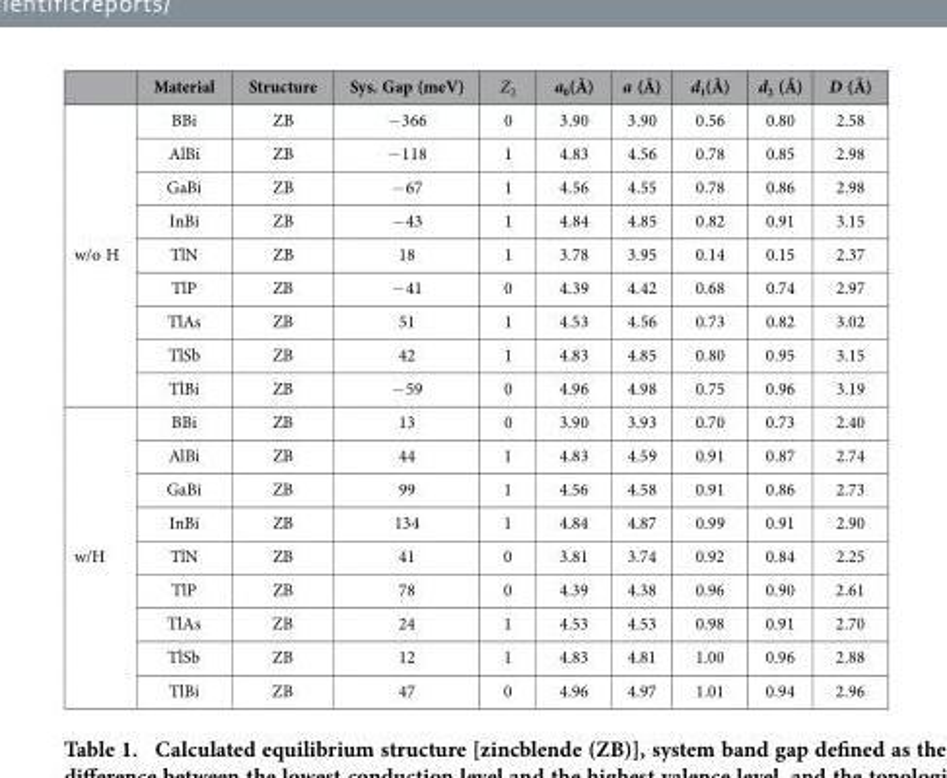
<table><thead><tr><td></td><td>Material</td><td>Structure</td><td>Sys. Gap (meV)</td><td>Z<sub>2</sub></td><td>a<sub>0</sub>(Å)</td><td>a (Å)</td><td>d<sub>1</sub>(Å)</td><td>d<sub>2</sub> (Å)</td><td>D (Å)</td></tr></thead><tbody><tr><td rowspan="9">w/o H</td><td>BBi</td><td>ZB</td><td>− 366</td><td>0</td><td>3.90</td><td>3.90</td><td>0.56</td><td>0.80</td><td>2.58</td></tr><tr><td>AlBi</td><td>ZB</td><td>− 118</td><td>1</td><td>4.83</td><td>4.56</td><td>0.78</td><td>0.85</td><td>2.98</td></tr><tr><td>GaBi</td><td>ZB</td><td>− 67</td><td>1</td><td>4.56</td><td>4.55</td><td>0.78</td><td>0.86</td><td>2.98</td></tr><tr><td>InBi</td><td>ZB</td><td>− 43</td><td>1</td><td>4.84</td><td>4.85</td><td>0.82</td><td>0.91</td><td>3.15</td></tr><tr><td>TlN</td><td>ZB</td><td>18</td><td>1</td><td>3.78</td><td>3.95</td><td>0.14</td><td>0.15</td><td>2.37</td></tr><tr><td>TlP</td><td>ZB</td><td>− 41</td><td>0</td><td>4.39</td><td>4.42</td><td>0.68</td><td>0.74</td><td>2.97</td></tr><tr><td>TlAs</td><td>ZB</td><td>51</td><td>1</td><td>4.53</td><td>4.56</td><td>0.73</td><td>0.82</td><td>3.02</td></tr><tr><td>TlSb</td><td>ZB</td><td>42</td><td>1</td><td>4.83</td><td>4.85</td><td>0.80</td><td>0.95</td><td>3.15</td></tr><tr><td>TlBi</td><td>ZB</td><td>− 59</td><td>0</td><td>4.96</td><td>4.98</td><td>0.75</td><td>0.96</td><td>3.19</td></tr><tr><td rowspan="9">w/H</td><td>BBi</td><td>ZB</td><td>13</td><td>0</td><td>3.90</td><td>3.93</td><td>0.70</td><td>0.73</td><td>2.40</td></tr><tr><td>AlBi</td><td>ZB</td><td>44</td><td>1</td><td>4.83</td><td>4.59</td><td>0.91</td><td>0.87</td><td>2.74</td></tr><tr><td>GaBi</td><td>ZB</td><td>99</td><td>1</td><td>4.56</td><td>4.58</td><td>0.91</td><td>0.86</td><td>2.73</td></tr><tr><td>InBi</td><td>ZB</td><td>134</td><td>1</td><td>4.84</td><td>4.87</td><td>0.99</td><td>0.91</td><td>2.90</td></tr><tr><td>TlN</td><td>ZB</td><td>41</td><td>0</td><td>3.81</td><td>3.74</td><td>0.92</td><td>0.84</td><td>2.25</td></tr><tr><td>TlP</td><td>ZB</td><td>78</td><td>0</td><td>4.39</td><td>4.38</td><td>0.96</td><td>0.90</td><td>2.61</td></tr><tr><td>TlAs</td><td>ZB</td><td>24</td><td>1</td><td>4.53</td><td>4.53</td><td>0.98</td><td>0.91</td><td>2.70</td></tr><tr><td>TlSb</td><td>ZB</td><td>12</td><td>1</td><td>4.83</td><td>4.81</td><td>1.00</td><td>0.96</td><td>2.88</td></tr><tr><td>TlBi</td><td>ZB</td><td>47</td><td>0</td><td>4.96</td><td>4.97</td><td>1.01</td><td>0.94</td><td>2.96</td></tr></tbody></table>